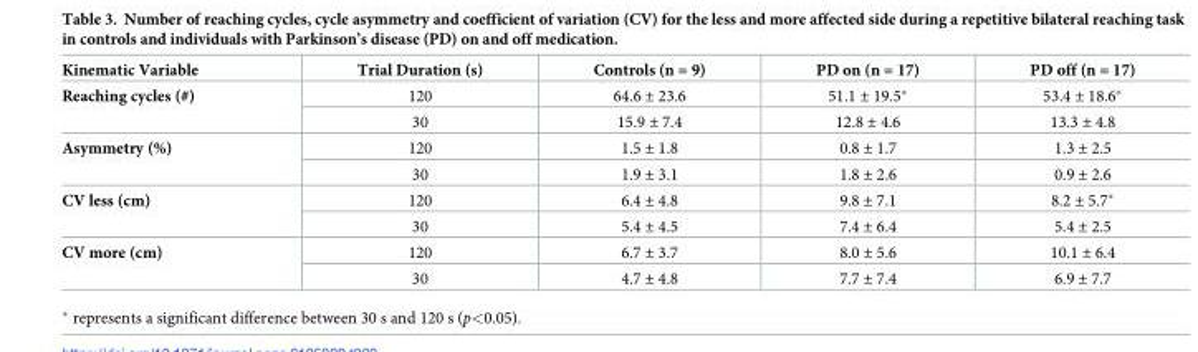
<table><thead><tr><td>Kinematic Variable</td><td>Trial Duration (s)</td><td>Controls (n = 9)</td><td>PD on (n = 17)</td><td>PD off (n = 17)</td></tr></thead><tbody><tr><td rowspan="2">Reaching cycles (#)</td><td>120</td><td>64.6 ± 23.6</td><td>51.1 ± 19.5*</td><td>53.4 ± 18.6*</td></tr><tr><td>30</td><td>15.9 ± 7.4</td><td>12.8 ± 4.6</td><td>13.3 ± 4.8</td></tr><tr><td rowspan="2">Asymmetry (%)</td><td>120</td><td>1.5 ± 1.8</td><td>0.8 ± 1.7</td><td>1.3 ± 2.5</td></tr><tr><td>30</td><td>1.9 ± 3.1</td><td>1.8 ± 2.6</td><td>0.9 ± 2.6</td></tr><tr><td rowspan="2">CV less (cm)</td><td>120</td><td>6.4 ± 4.8</td><td>9.8 ± 7.1</td><td>8.2 ± 5.7*</td></tr><tr><td>30</td><td>5.4 ± 4.5</td><td>7.4 ± 6.4</td><td>5.4 ± 2.5</td></tr><tr><td rowspan="2">CV more (cm)</td><td>120</td><td>6.7 ± 3.7</td><td>8.0 ± 5.6</td><td>10.1 ± 6.4</td></tr><tr><td>30</td><td>4.7 ± 4.8</td><td>7.7 ± 7.4</td><td>6.9 ± 7.7</td></tr></tbody></table>